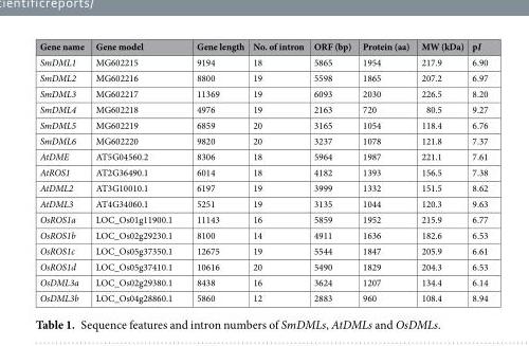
<table><thead><tr><td>Gene name</td><td>Gene model</td><td>Gene length</td><td>No. of intron</td><td>ORF (bp)</td><td>Protein (aa)</td><td>MW (kDa)</td><td>pI</td></tr></thead><tbody><tr><td>SmDML1</td><td>MG602215</td><td>9194</td><td>18</td><td>5865</td><td>1954</td><td>217.9</td><td>6.90</td></tr><tr><td>SmDML2</td><td>MG602216</td><td>8800</td><td>19</td><td>5598</td><td>1865</td><td>207.2</td><td>6.97</td></tr><tr><td>SmDML3</td><td>MG602217</td><td>11369</td><td>19</td><td>6093</td><td>2030</td><td>226.5</td><td>8.20</td></tr><tr><td>SmDML4</td><td>MG602218</td><td>4976</td><td>19</td><td>2163</td><td>720</td><td>80.5</td><td>9.27</td></tr><tr><td>SmDML5</td><td>MG602219</td><td>6859</td><td>20</td><td>3165</td><td>1054</td><td>118.4</td><td>6.76</td></tr><tr><td>SmDML6</td><td>MG602220</td><td>9820</td><td>20</td><td>3237</td><td>1078</td><td>121.8</td><td>7.37</td></tr><tr><td>AtDME</td><td>AT5G04560.2</td><td>8306</td><td>18</td><td>5964</td><td>1987</td><td>221.1</td><td>7.61</td></tr><tr><td>AtROS1</td><td>AT2G36490.1</td><td>6014</td><td>18</td><td>4182</td><td>1393</td><td>156.5</td><td>7.38</td></tr><tr><td>AtDML2</td><td>AT3G10010.1</td><td>6197</td><td>19</td><td>3999</td><td>1332</td><td>151.5</td><td>8.62</td></tr><tr><td>AtDML3</td><td>AT4G34060.1</td><td>5251</td><td>19</td><td>3135</td><td>1044</td><td>120.3</td><td>9.63</td></tr><tr><td>OsROS1a</td><td>LOC_Os01g11900.1</td><td>11143</td><td>16</td><td>5859</td><td>1952</td><td>215.9</td><td>6.77</td></tr><tr><td>OsROS1b</td><td>LOC_Os02g29230.1</td><td>8100</td><td>14</td><td>4911</td><td>1636</td><td>182.6</td><td>6.53</td></tr><tr><td>OsROS1c</td><td>LOC_Os05g37350.1</td><td>12675</td><td>19</td><td>5544</td><td>1847</td><td>205.9</td><td>6.61</td></tr><tr><td>OsROS1d</td><td>LOC_Os05g37410.1</td><td>10616</td><td>20</td><td>5490</td><td>1829</td><td>204.3</td><td>6.53</td></tr><tr><td>OsDML3a</td><td>LOC_Os02g29380.1</td><td>8438</td><td>16</td><td>3624</td><td>1207</td><td>134.4</td><td>6.14</td></tr><tr><td>OsDML3b</td><td>LOC_Os04g28860.1</td><td>5860</td><td>12</td><td>2883</td><td>960</td><td>108.4</td><td>8.94</td></tr></tbody></table>